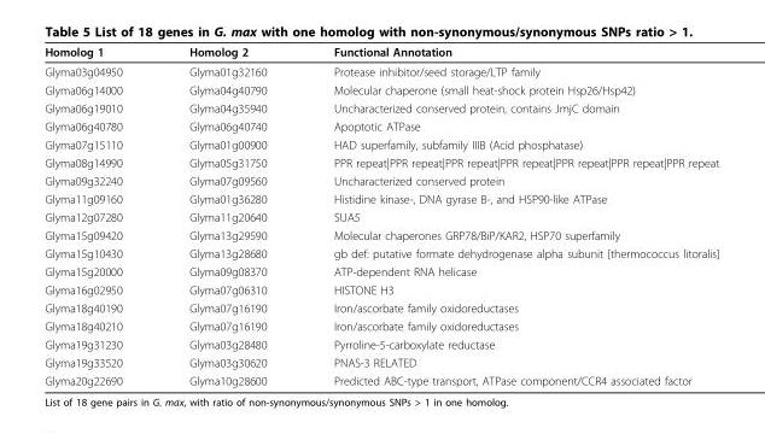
<table><thead><tr><td>Homolog 1</td><td>Homolog 2</td><td>Functional Annotation</td></tr></thead><tbody><tr><td>Glyma03g04950</td><td>Glyma01g32160</td><td>Protease inhibitor/seed storage/LTP family</td></tr><tr><td>Glyma06g14000</td><td>Glyma04g40790</td><td>Molecular chaperone (small heat-shock protein Hsp26/Hsp42)</td></tr><tr><td>Glyma06g19010</td><td>Glyma04g35940</td><td>Uncharacterized conserved protein, contains JmjC domain</td></tr><tr><td>Glyma06g40780</td><td>Glyma06g40740</td><td>Apoptotic ATPase</td></tr><tr><td>Glyma07g15110</td><td>Glyma01g00900</td><td>HAD superfamily, subfamily IIIB (Acid phosphatase)</td></tr><tr><td>Glyma08g14990</td><td>Glyma05g31750</td><td>PPR repeat|PPR repeat|PPR repeat|PPR repeat|PPR repeat|PPR repeat|PPR repeat</td></tr><tr><td>Glyma09g32240</td><td>Glyma07g09560</td><td>Uncharacterized conserved protein</td></tr><tr><td>Glyma11g09160</td><td>Glyma01g36280</td><td>Histidine kinase-, DNA gyrase B-, and HSP90-like ATPase</td></tr><tr><td>Glyma12g07280</td><td>Glyma11g20640</td><td>SUA5</td></tr><tr><td>Glyma15g09420</td><td>Glyma13g29590</td><td>Molecular chaperones GRP78/BiP/KAR2, HSP70 superfamily</td></tr><tr><td>Glyma15g10430</td><td>Glyma13g28680</td><td>gb def: putative formate dehydrogenase alpha subunit [thermococcus litoralis]</td></tr><tr><td>Glyma15g20000</td><td>Glyma09g08370</td><td>ATP-dependent RNA helicase</td></tr><tr><td>Glyma16g02950</td><td>Glyma07g06310</td><td>HISTONE H3</td></tr><tr><td>Glyma18g40190</td><td>Glyma07g16190</td><td>Iron/ascorbate family oxidoreductases</td></tr><tr><td>Glyma18g40210</td><td>Glyma07g16190</td><td>Iron/ascorbate family oxidoreductases</td></tr><tr><td>Glyma19g31230</td><td>Glyma03g28480</td><td>Pyrroline-5-carboxylate reductase</td></tr><tr><td>Glyma19g33520</td><td>Glyma03g30620</td><td>PNAS-3 RELATED</td></tr><tr><td>Glyma20g22690</td><td>Glyma10g28600</td><td>Predicted ABC-type transport, ATPase component/CCR4 associated factor</td></tr></tbody></table>